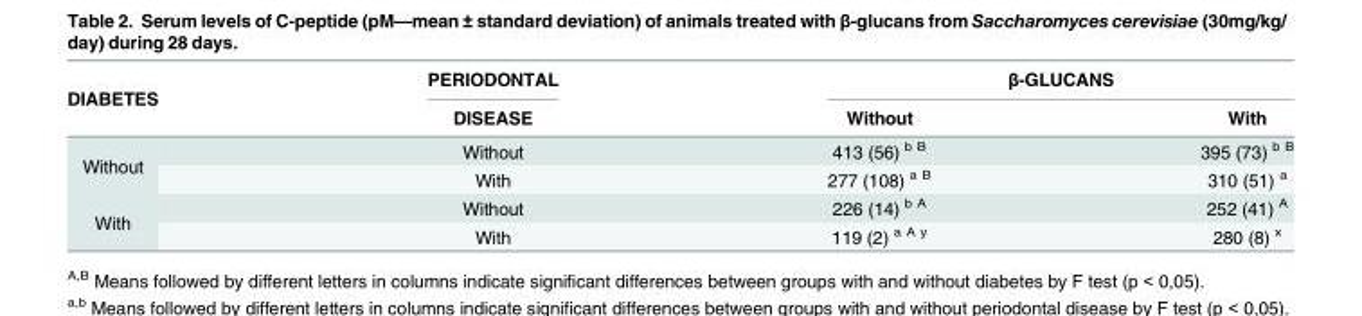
<table><thead><tr><td rowspan="2">DIABETES</td><td rowspan="2">PERIODONTAL DISEASE</td><td colspan="2">β-GLUCANS</td></tr><tr><td>Without</td><td>With</td></tr></thead><tbody><tr><td rowspan="2">Without</td><td>Without</td><td>413 (56) <sup>b B</sup></td><td>395 (73) <sup>b B</sup></td></tr><tr><td>With</td><td>277 (108) <sup>a B</sup></td><td>310 (51) <sup>a</sup></td></tr><tr><td rowspan="2">With</td><td>Without</td><td>226 (14) <sup>b A</sup></td><td>252 (41) <sup>A</sup></td></tr><tr><td>With</td><td>119 (2) <sup>a A y</sup></td><td>280 (8) <sup>x</sup></td></tr></tbody></table>